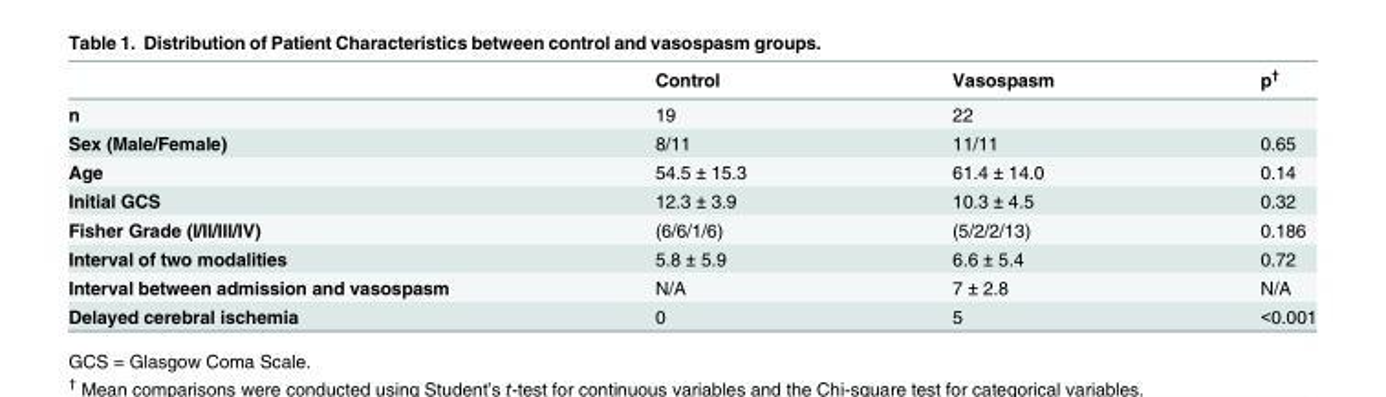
<table><thead><tr><td></td><td>Control</td><td>Vasospasm</td><td>p<sup>†</sup></td></tr></thead><tbody><tr><td>n</td><td>19</td><td>22</td><td></td></tr><tr><td>Sex (Male/Female)</td><td>8/11</td><td>11/11</td><td>0.65</td></tr><tr><td>Age</td><td>54.5 ± 15.3</td><td>61.4 ± 14.0</td><td>0.14</td></tr><tr><td>Initial GCS</td><td>12.3 ± 3.9</td><td>10.3 ± 4.5</td><td>0.32</td></tr><tr><td>Fisher Grade (I/II/III/IV)</td><td>(6/6/1/6)</td><td>(5/2/2/13)</td><td>0.186</td></tr><tr><td>Interval of two modalities</td><td>5.8 ± 5.9</td><td>6.6 ± 5.4</td><td>0.72</td></tr><tr><td>Interval between admission and vasospasm</td><td>N/A</td><td>7 ± 2.8</td><td>N/A</td></tr><tr><td>Delayed cerebral ischemia</td><td>0</td><td>5</td><td>&lt;0.001</td></tr></tbody></table>